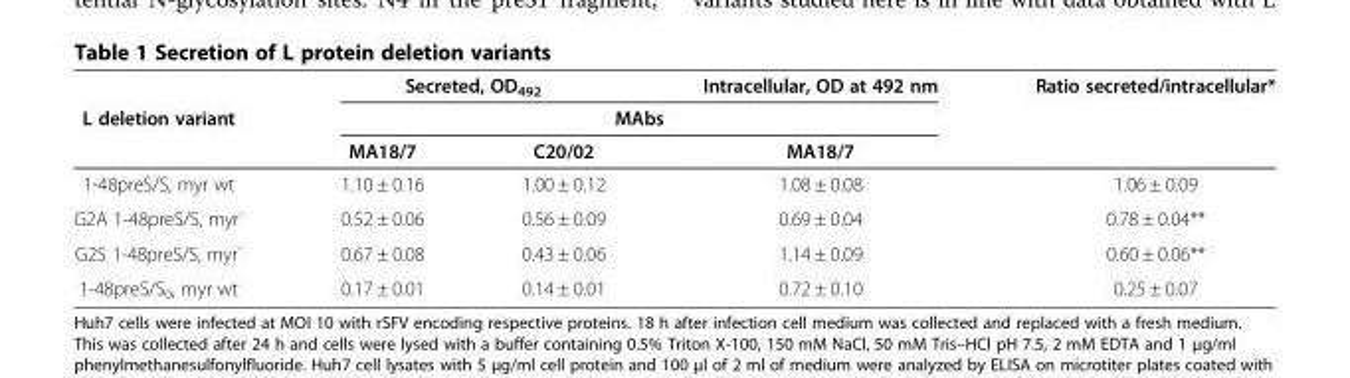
<table><thead><tr><td rowspan="3">L deletion variant</td><td colspan="2">Secreted, OD<sub>492</sub></td><td>Intracellular, OD at 492 nm</td><td rowspan="3">Ratio secreted/intracellular*</td></tr><tr><td colspan="3">MAbs</td></tr><tr><td>MA18/7</td><td>C20/02</td><td>MA18/7</td></tr></thead><tbody><tr><td>1-48preS/S, myr wt</td><td>1.10 ± 0.16</td><td>1.00 ± 0.12</td><td>1.08 ± 0.08</td><td>1.06 ± 0.09</td></tr><tr><td>G2A 1-48preS/S, myr<sup>-</sup></td><td>0.52 ± 0.06</td><td>0.56 ± 0.09</td><td>0.69 ± 0.04</td><td>0.78 ± 0.04**</td></tr><tr><td>G2S 1-48preS/S, myr<sup>-</sup></td><td>0.67 ± 0.08</td><td>0.43 ± 0.06</td><td>1.14 ± 0.09</td><td>0.60 ± 0.06**</td></tr><tr><td>1-48preS/S<sub>0</sub>, myr wt</td><td>0.17 ± 0.01</td><td>0.14 ± 0.01</td><td>0.72 ± 0.10</td><td>0.25 ± 0.07</td></tr></tbody></table>